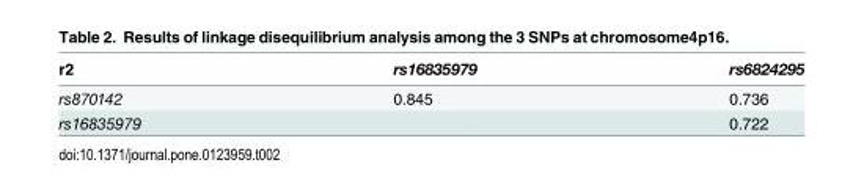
<table><thead><tr><td>r2</td><td>rs16835979</td><td>rs6824295</td></tr></thead><tbody><tr><td>rs870142</td><td>0.845</td><td>0.736</td></tr><tr><td>rs16835979</td><td></td><td>0.722</td></tr></tbody></table>